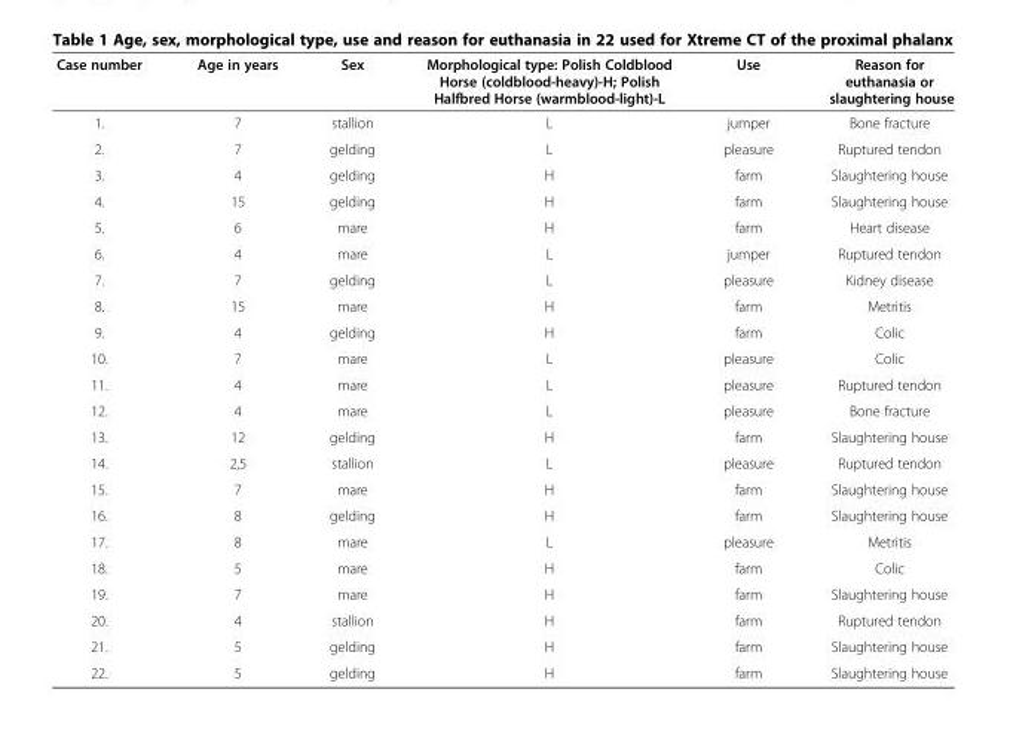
<table><thead><tr><td>Case number</td><td>Age in years</td><td>Sex</td><td>Morphological type: Polish Coldblood Horse (coldblood-heavy)-H; Polish Halfbred Horse (warmblood-light)-L</td><td>Use</td><td>Reason for euthanasia or slaughtering house</td></tr></thead><tbody><tr><td>1.</td><td>7</td><td>stallion</td><td>L</td><td>jumper</td><td>Bone fracture</td></tr><tr><td>2.</td><td>7</td><td>gelding</td><td>L</td><td>pleasure</td><td>Ruptured tendon</td></tr><tr><td>3.</td><td>4</td><td>gelding</td><td>H</td><td>farm</td><td>Slaughtering house</td></tr><tr><td>4.</td><td>15</td><td>gelding</td><td>H</td><td>farm</td><td>Slaughtering house</td></tr><tr><td>5.</td><td>6</td><td>mare</td><td>H</td><td>farm</td><td>Heart disease</td></tr><tr><td>6.</td><td>4</td><td>mare</td><td>L</td><td>jumper</td><td>Ruptured tendon</td></tr><tr><td>7.</td><td>7</td><td>gelding</td><td>L</td><td>pleasure</td><td>Kidney disease</td></tr><tr><td>8.</td><td>15</td><td>mare</td><td>H</td><td>farm</td><td>Metritis</td></tr><tr><td>9.</td><td>4</td><td>gelding</td><td>H</td><td>farm</td><td>Colic</td></tr><tr><td>10.</td><td>7</td><td>mare</td><td>L</td><td>pleasure</td><td>Colic</td></tr><tr><td>11.</td><td>4</td><td>mare</td><td>L</td><td>pleasure</td><td>Ruptured tendon</td></tr><tr><td>12.</td><td>4</td><td>mare</td><td>L</td><td>pleasure</td><td>Bone fracture</td></tr><tr><td>13.</td><td>12</td><td>gelding</td><td>H</td><td>farm</td><td>Slaughtering house</td></tr><tr><td>14.</td><td>2,5</td><td>stallion</td><td>L</td><td>pleasure</td><td>Ruptured tendon</td></tr><tr><td>15.</td><td>7</td><td>mare</td><td>H</td><td>farm</td><td>Slaughtering house</td></tr><tr><td>16.</td><td>8</td><td>gelding</td><td>H</td><td>farm</td><td>Slaughtering house</td></tr><tr><td>17.</td><td>8</td><td>mare</td><td>L</td><td>pleasure</td><td>Metritis</td></tr><tr><td>18.</td><td>5</td><td>mare</td><td>H</td><td>farm</td><td>Colic</td></tr><tr><td>19.</td><td>7</td><td>mare</td><td>H</td><td>farm</td><td>Slaughtering house</td></tr><tr><td>20.</td><td>4</td><td>stallion</td><td>H</td><td>farm</td><td>Ruptured tendon</td></tr><tr><td>21.</td><td>5</td><td>gelding</td><td>H</td><td>farm</td><td>Slaughtering house</td></tr><tr><td>22.</td><td>5</td><td>gelding</td><td>H</td><td>farm</td><td>Slaughtering house</td></tr></tbody></table>